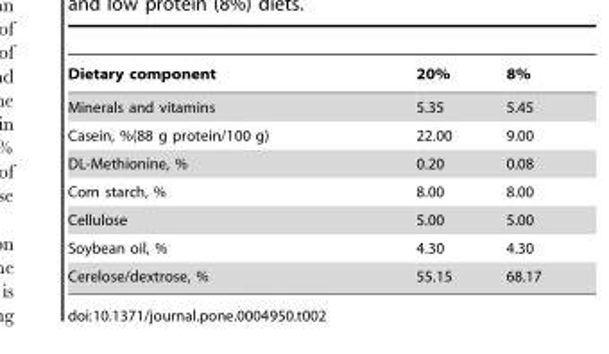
<table><thead><tr><td>Dietary component</td><td>20%</td><td>8%</td></tr></thead><tbody><tr><td>Minerals and vitamins</td><td>5.35</td><td>5.45</td></tr><tr><td>Casein, %(88 g protein/100 g)</td><td>22.00</td><td>9.00</td></tr><tr><td>DL-Methionine, %</td><td>0.20</td><td>0.08</td></tr><tr><td>Corn starch, %</td><td>8.00</td><td>8.00</td></tr><tr><td>Cellulose</td><td>5.00</td><td>5.00</td></tr><tr><td>Soybean oil, %</td><td>4.30</td><td>4.30</td></tr><tr><td>Cerelose/dextrose, %</td><td>55.15</td><td>68.17</td></tr></tbody></table>